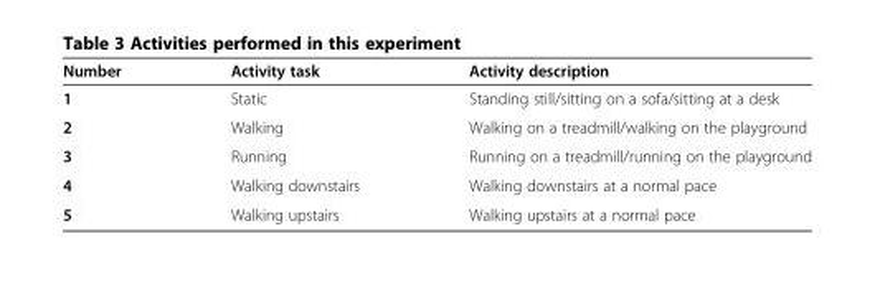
<table><thead><tr><td>Number</td><td>Activity task</td><td>Activity description</td></tr></thead><tbody><tr><td>1</td><td>Static</td><td>Standing still/sitting on a sofa/sitting at a desk</td></tr><tr><td>2</td><td>Walking</td><td>Walking on a treadmill/walking on the playground</td></tr><tr><td>3</td><td>Running</td><td>Running on a treadmill/running on the playground</td></tr><tr><td>4</td><td>Walking downstairs</td><td>Walking downstairs at a normal pace</td></tr><tr><td>5</td><td>Walking upstairs</td><td>Walking upstairs at a normal pace</td></tr></tbody></table>